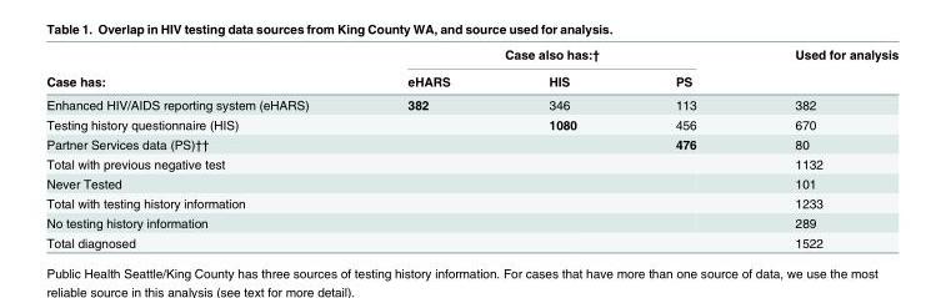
<table><thead><tr><td rowspan="2">Case has:</td><td colspan="3">Case also has:†</td><td rowspan="2">Used for analysis</td></tr><tr><td>eHARS</td><td>HIS</td><td>PS</td></tr></thead><tbody><tr><td>Enhanced HIV/AIDS reporting system (eHARS)</td><td>382</td><td>346</td><td>113</td><td>382</td></tr><tr><td>Testing history questionnaire (HIS)</td><td></td><td>1080</td><td>456</td><td>670</td></tr><tr><td>Partner Services data (PS)††</td><td></td><td></td><td>476</td><td>80</td></tr><tr><td>Total with previous negative test</td><td></td><td></td><td></td><td>1132</td></tr><tr><td>Never Tested</td><td></td><td></td><td></td><td>101</td></tr><tr><td>Total with testing history information</td><td></td><td></td><td></td><td>1233</td></tr><tr><td>No testing history information</td><td></td><td></td><td></td><td>289</td></tr><tr><td>Total diagnosed</td><td></td><td></td><td></td><td>1522</td></tr></tbody></table>